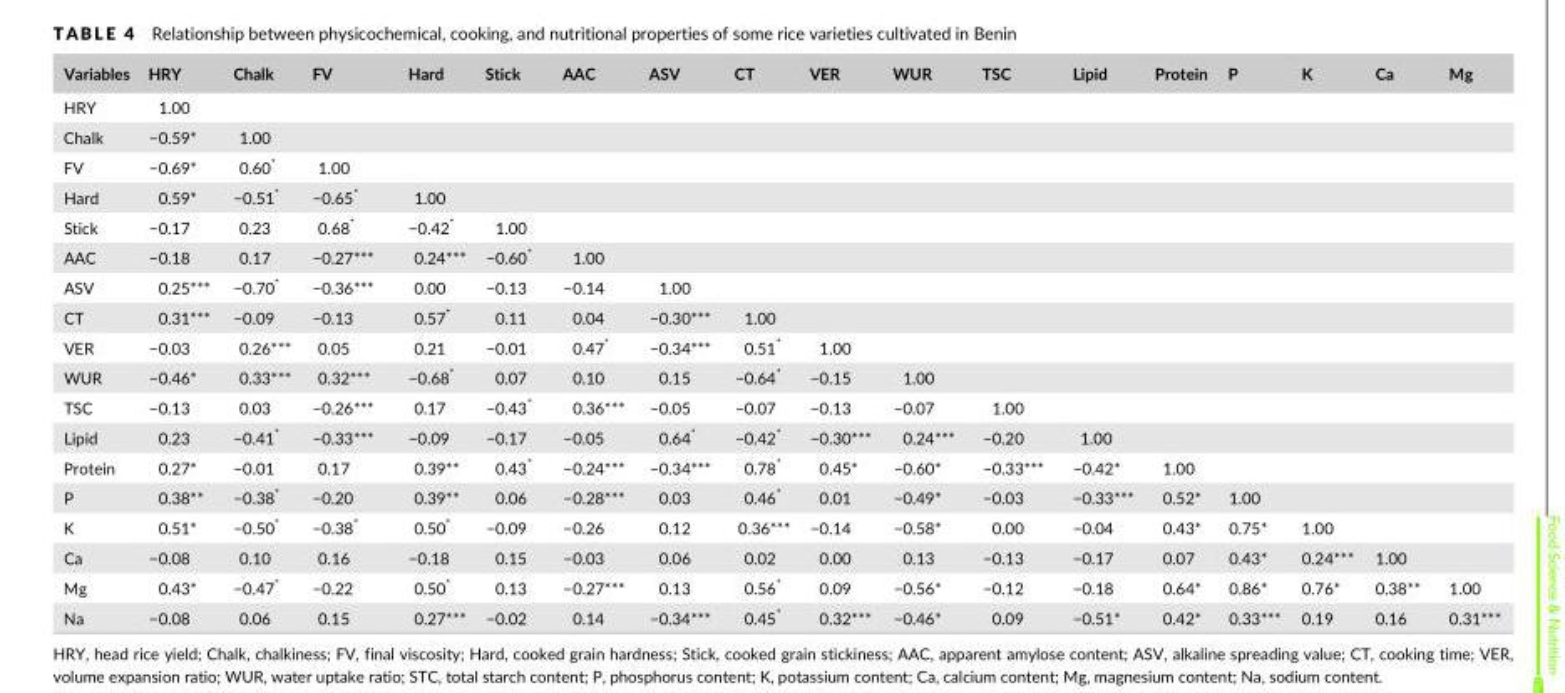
<table><thead><tr><td>Variables</td><td>HRY</td><td>Chalk</td><td>FV</td><td>Hard</td><td>Stick</td><td>AAC</td><td>ASV</td><td>CT</td><td>VER</td><td>WUR</td><td>TSC</td><td>Lipid</td><td>Protein</td><td>P</td><td>K</td><td>Ca</td><td>Mg</td></tr></thead><tbody><tr><td>HRY</td><td>1.00</td><td></td><td></td><td></td><td></td><td></td><td></td><td></td><td></td><td></td><td></td><td></td><td></td><td></td><td></td><td></td><td></td></tr><tr><td>Chalk</td><td>−0.59*</td><td>1.00</td><td></td><td></td><td></td><td></td><td></td><td></td><td></td><td></td><td></td><td></td><td></td><td></td><td></td><td></td><td></td></tr><tr><td>FV</td><td>−0.69*</td><td>0.60*</td><td>1.00</td><td></td><td></td><td></td><td></td><td></td><td></td><td></td><td></td><td></td><td></td><td></td><td></td><td></td><td></td></tr><tr><td>Hard</td><td>0.59*</td><td>−0.51*</td><td>−0.65*</td><td>1.00</td><td></td><td></td><td></td><td></td><td></td><td></td><td></td><td></td><td></td><td></td><td></td><td></td><td></td></tr><tr><td>Stick</td><td>−0.17</td><td>0.23</td><td>0.68*</td><td>−0.42*</td><td>1.00</td><td></td><td></td><td></td><td></td><td></td><td></td><td></td><td></td><td></td><td></td><td></td><td></td></tr><tr><td>AAC</td><td>−0.18</td><td>0.17</td><td>−0.27***</td><td>0.24***</td><td>−0.60*</td><td>1.00</td><td></td><td></td><td></td><td></td><td></td><td></td><td></td><td></td><td></td><td></td><td></td></tr><tr><td>ASV</td><td>0.25***</td><td>−0.70*</td><td>−0.36***</td><td>0.00</td><td>−0.13</td><td>−0.14</td><td>1.00</td><td></td><td></td><td></td><td></td><td></td><td></td><td></td><td></td><td></td><td></td></tr><tr><td>CT</td><td>0.31***</td><td>−0.09</td><td>−0.13</td><td>0.57*</td><td>0.11</td><td>0.04</td><td>−0.30***</td><td>1.00</td><td></td><td></td><td></td><td></td><td></td><td></td><td></td><td></td><td></td></tr><tr><td>VER</td><td>−0.03</td><td>0.26***</td><td>0.05</td><td>0.21</td><td>−0.01</td><td>0.47*</td><td>−0.34***</td><td>0.51*</td><td>1.00</td><td></td><td></td><td></td><td></td><td></td><td></td><td></td><td></td></tr><tr><td>WUR</td><td>−0.46*</td><td>0.33***</td><td>0.32***</td><td>−0.68*</td><td>0.07</td><td>0.10</td><td>0.15</td><td>−0.64*</td><td>−0.15</td><td>1.00</td><td></td><td></td><td></td><td></td><td></td><td></td><td></td></tr><tr><td>TSC</td><td>−0.13</td><td>0.03</td><td>−0.26***</td><td>0.17</td><td>−0.43*</td><td>0.36***</td><td>−0.05</td><td>−0.07</td><td>−0.13</td><td>−0.07</td><td>1.00</td><td></td><td></td><td></td><td></td><td></td><td></td></tr><tr><td>Lipid</td><td>0.23</td><td>−0.41*</td><td>−0.33***</td><td>−0.09</td><td>−0.17</td><td>−0.05</td><td>0.64*</td><td>−0.42*</td><td>−0.30***</td><td>0.24***</td><td>−0.20</td><td>1.00</td><td></td><td></td><td></td><td></td><td></td></tr><tr><td>Protein</td><td>0.27*</td><td>−0.01</td><td>0.17</td><td>0.39**</td><td>0.43*</td><td>−0.24***</td><td>−0.34***</td><td>0.78*</td><td>0.45*</td><td>−0.60*</td><td>−0.33***</td><td>−0.42*</td><td>1.00</td><td></td><td></td><td></td><td></td></tr><tr><td>P</td><td>0.38**</td><td>−0.38*</td><td>−0.20</td><td>0.39**</td><td>0.06</td><td>−0.28***</td><td>0.03</td><td>0.46*</td><td>0.01</td><td>−0.49*</td><td>−0.03</td><td>−0.33***</td><td>0.52*</td><td>1.00</td><td></td><td></td><td></td></tr><tr><td>K</td><td>0.51*</td><td>−0.50*</td><td>−0.38*</td><td>0.50*</td><td>−0.09</td><td>−0.26</td><td>0.12</td><td>0.36***</td><td>−0.14</td><td>−0.58*</td><td>0.00</td><td>−0.04</td><td>0.43*</td><td>0.75*</td><td>1.00</td><td></td><td></td></tr><tr><td>Ca</td><td>−0.08</td><td>0.10</td><td>0.16</td><td>−0.18</td><td>0.15</td><td>−0.03</td><td>0.06</td><td>0.02</td><td>0.00</td><td>0.13</td><td>−0.13</td><td>−0.17</td><td>0.07</td><td>0.43*</td><td>0.24***</td><td>1.00</td><td></td></tr><tr><td>Mg</td><td>0.43*</td><td>−0.47*</td><td>−0.22</td><td>0.50*</td><td>0.13</td><td>−0.27***</td><td>0.13</td><td>0.56*</td><td>0.09</td><td>−0.56*</td><td>−0.12</td><td>−0.18</td><td>0.64*</td><td>0.86*</td><td>0.76*</td><td>0.38**</td><td>1.00</td></tr><tr><td>Na</td><td>−0.08</td><td>0.06</td><td>0.15</td><td>0.27***</td><td>−0.02</td><td>0.14</td><td>−0.34***</td><td>0.45*</td><td>0.32***</td><td>−0.46*</td><td>0.09</td><td>−0.51*</td><td>0.42*</td><td>0.33***</td><td>0.19</td><td>0.16</td><td>0.31***</td></tr></tbody></table>